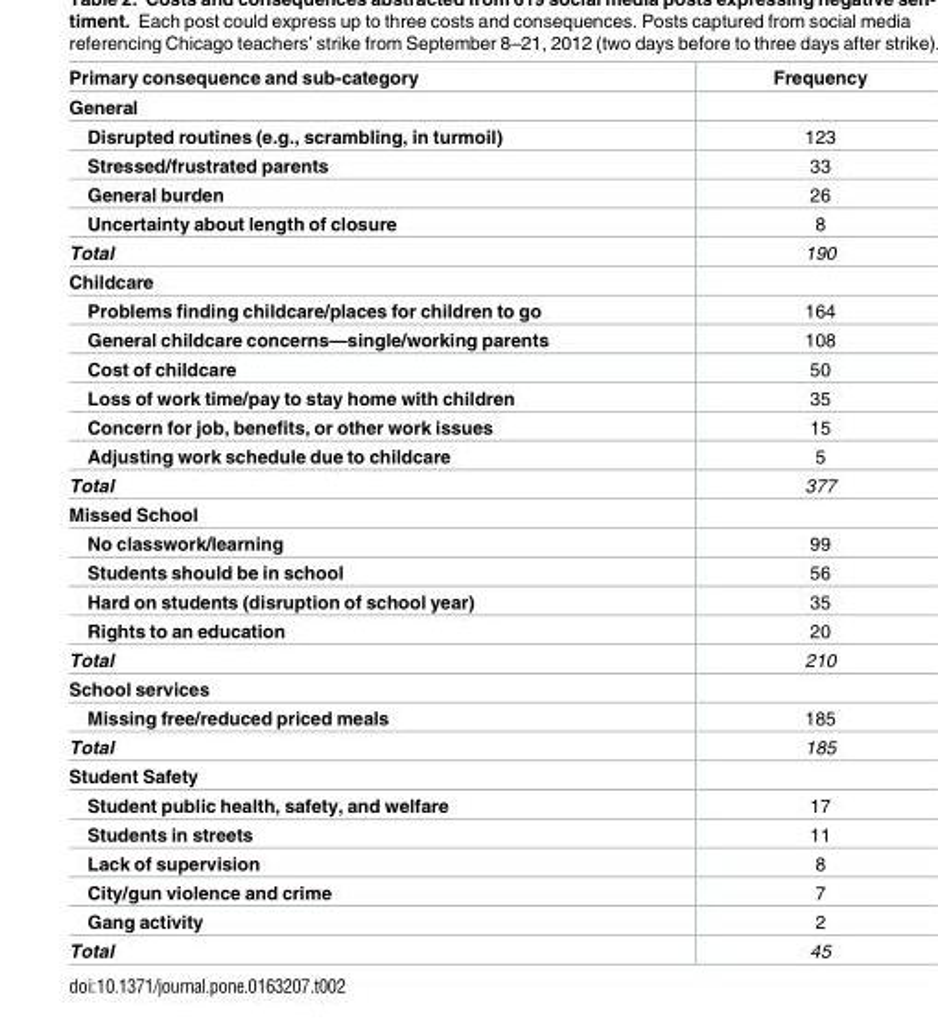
<table><thead><tr><td>Primary consequence and sub-category</td><td>Frequency</td></tr></thead><tbody><tr><td colspan="2">General</td></tr><tr><td>Disrupted routines (e.g., scrambling, in turmoil)</td><td>123</td></tr><tr><td>Stressed/frustrated parents</td><td>33</td></tr><tr><td>General burden</td><td>26</td></tr><tr><td>Uncertainty about length of closure</td><td>8</td></tr><tr><td>Total</td><td>190</td></tr><tr><td colspan="2">Childcare</td></tr><tr><td>Problems finding childcare/places for children to go</td><td>164</td></tr><tr><td>General childcare concerns—single/working parents</td><td>108</td></tr><tr><td>Cost of childcare</td><td>50</td></tr><tr><td>Loss of work time/pay to stay home with children</td><td>35</td></tr><tr><td>Concern for job, benefits, or other work issues</td><td>15</td></tr><tr><td>Adjusting work schedule due to childcare</td><td>5</td></tr><tr><td>Total</td><td>377</td></tr><tr><td colspan="2">Missed School</td></tr><tr><td>No classwork/learning</td><td>99</td></tr><tr><td>Students should be in school</td><td>56</td></tr><tr><td>Hard on students (disruption of school year)</td><td>35</td></tr><tr><td>Rights to an education</td><td>20</td></tr><tr><td>Total</td><td>210</td></tr><tr><td colspan="2">School services</td></tr><tr><td>Missing free/reduced priced meals</td><td>185</td></tr><tr><td>Total</td><td>185</td></tr><tr><td colspan="2">Student Safety</td></tr><tr><td>Student public health, safety, and welfare</td><td>17</td></tr><tr><td>Students in streets</td><td>11</td></tr><tr><td>Lack of supervision</td><td>8</td></tr><tr><td>City/gun violence and crime</td><td>7</td></tr><tr><td>Gang activity</td><td>2</td></tr><tr><td>Total</td><td>45</td></tr></tbody></table>